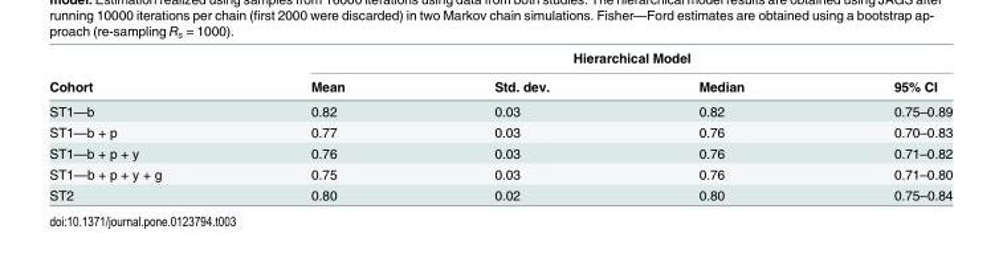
<table><thead><tr><td rowspan="2">Cohort</td><td colspan="4">Hierarchical Model</td></tr><tr><td>Mean</td><td>Std. dev.</td><td>Median</td><td>95% CI</td></tr></thead><tbody><tr><td>ST1—b</td><td>0.82</td><td>0.03</td><td>0.82</td><td>0.75–0.89</td></tr><tr><td>ST1—b + p</td><td>0.77</td><td>0.03</td><td>0.76</td><td>0.70–0.83</td></tr><tr><td>ST1—b + p + y</td><td>0.76</td><td>0.03</td><td>0.76</td><td>0.71–0.82</td></tr><tr><td>ST1—b + p + y + g</td><td>0.75</td><td>0.03</td><td>0.76</td><td>0.71–0.80</td></tr><tr><td>ST2</td><td>0.80</td><td>0.02</td><td>0.80</td><td>0.75–0.84</td></tr></tbody></table>